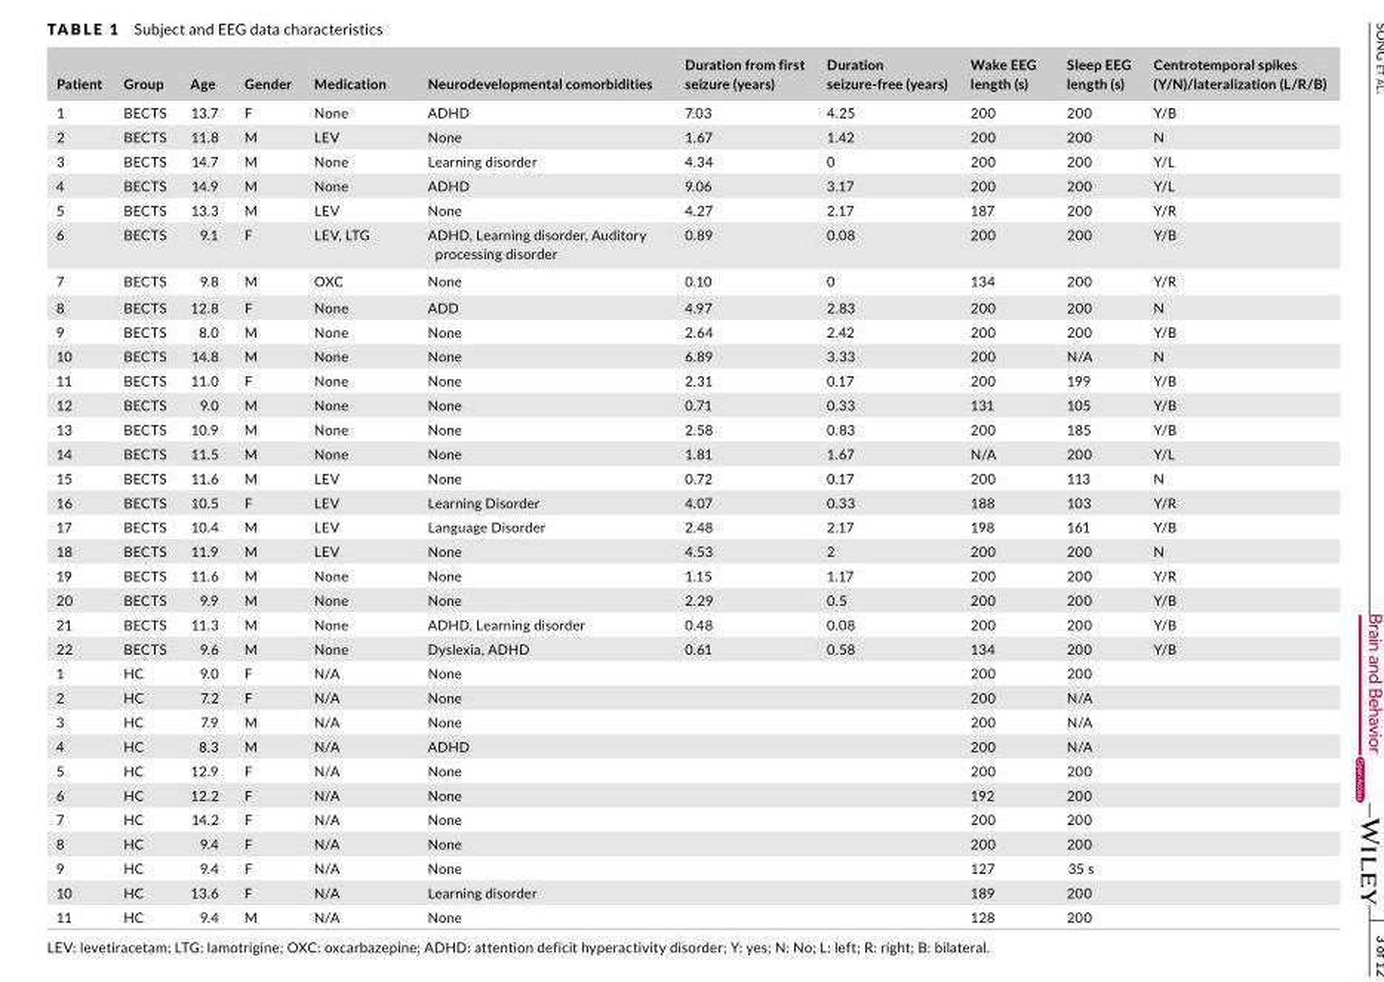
<table><thead><tr><td>Patient</td><td>Group</td><td>Age</td><td>Gender</td><td>Medication</td><td>Neurodevelopmental comorbidities</td><td>Duration from first seizure (years)</td><td>Duration seizure‐free (years)</td><td>Wake EEG length (s)</td><td>Sleep EEG length (s)</td><td>Centrotemporal spikes (Y/N)/lateralization (L/R/B)</td></tr></thead><tbody><tr><td>1</td><td>BECTS</td><td>13.7</td><td>F</td><td>None</td><td>ADHD</td><td>7.03</td><td>4.25</td><td>200</td><td>200</td><td>Y/B</td></tr><tr><td>2</td><td>BECTS</td><td>11.8</td><td>M</td><td>LEV</td><td>None</td><td>1.67</td><td>1.42</td><td>200</td><td>200</td><td>N</td></tr><tr><td>3</td><td>BECTS</td><td>14.7</td><td>M</td><td>None</td><td>Learning disorder</td><td>4.34</td><td>0</td><td>200</td><td>200</td><td>Y/L</td></tr><tr><td>4</td><td>BECTS</td><td>14.9</td><td>M</td><td>None</td><td>ADHD</td><td>9.06</td><td>3.17</td><td>200</td><td>200</td><td>Y/L</td></tr><tr><td>5</td><td>BECTS</td><td>13.3</td><td>M</td><td>LEV</td><td>None</td><td>4.27</td><td>2.17</td><td>187</td><td>200</td><td>Y/R</td></tr><tr><td>6</td><td>BECTS</td><td>9.1</td><td>F</td><td>LEV, LTG</td><td>ADHD, Learning disorder, Auditory processing disorder</td><td>0.89</td><td>0.08</td><td>200</td><td>200</td><td>Y/B</td></tr><tr><td>7</td><td>BECTS</td><td>9.8</td><td>M</td><td>OXC</td><td>None</td><td>0.10</td><td>0</td><td>134</td><td>200</td><td>Y/R</td></tr><tr><td>8</td><td>BECTS</td><td>12.8</td><td>F</td><td>None</td><td>ADD</td><td>4.97</td><td>2.83</td><td>200</td><td>200</td><td>N</td></tr><tr><td>9</td><td>BECTS</td><td>8.0</td><td>M</td><td>None</td><td>None</td><td>2.64</td><td>2.42</td><td>200</td><td>200</td><td>Y/B</td></tr><tr><td>10</td><td>BECTS</td><td>14.8</td><td>M</td><td>None</td><td>None</td><td>6.89</td><td>3.33</td><td>200</td><td>N/A</td><td>N</td></tr><tr><td>11</td><td>BECTS</td><td>11.0</td><td>F</td><td>None</td><td>None</td><td>2.31</td><td>0.17</td><td>200</td><td>199</td><td>Y/B</td></tr><tr><td>12</td><td>BECTS</td><td>9.0</td><td>M</td><td>None</td><td>None</td><td>0.71</td><td>0.33</td><td>131</td><td>105</td><td>Y/B</td></tr><tr><td>13</td><td>BECTS</td><td>10.9</td><td>M</td><td>None</td><td>None</td><td>2.58</td><td>0.83</td><td>200</td><td>185</td><td>Y/B</td></tr><tr><td>14</td><td>BECTS</td><td>11.5</td><td>M</td><td>None</td><td>None</td><td>1.81</td><td>1.67</td><td>N/A</td><td>200</td><td>Y/L</td></tr><tr><td>15</td><td>BECTS</td><td>11.6</td><td>M</td><td>LEV</td><td>None</td><td>0.72</td><td>0.17</td><td>200</td><td>113</td><td>N</td></tr><tr><td>16</td><td>BECTS</td><td>10.5</td><td>F</td><td>LEV</td><td>Learning Disorder</td><td>4.07</td><td>0.33</td><td>188</td><td>103</td><td>Y/R</td></tr><tr><td>17</td><td>BECTS</td><td>10.4</td><td>M</td><td>LEV</td><td>Language Disorder</td><td>2.48</td><td>2.17</td><td>198</td><td>161</td><td>Y/B</td></tr><tr><td>18</td><td>BECTS</td><td>11.9</td><td>M</td><td>LEV</td><td>None</td><td>4.53</td><td>2</td><td>200</td><td>200</td><td>N</td></tr><tr><td>19</td><td>BECTS</td><td>11.6</td><td>M</td><td>None</td><td>None</td><td>1.15</td><td>1.17</td><td>200</td><td>200</td><td>Y/R</td></tr><tr><td>20</td><td>BECTS</td><td>9.9</td><td>M</td><td>None</td><td>None</td><td>2.29</td><td>0.5</td><td>200</td><td>200</td><td>Y/B</td></tr><tr><td>21</td><td>BECTS</td><td>11.3</td><td>M</td><td>None</td><td>ADHD, Learning disorder</td><td>0.48</td><td>0.08</td><td>200</td><td>200</td><td>Y/B</td></tr><tr><td>22</td><td>BECTS</td><td>9.6</td><td>M</td><td>None</td><td>Dyslexia, ADHD</td><td>0.61</td><td>0.58</td><td>134</td><td>200</td><td>Y/B</td></tr><tr><td>1</td><td>HC</td><td>9.0</td><td>F</td><td>N/A</td><td>None</td><td></td><td></td><td>200</td><td>200</td><td></td></tr><tr><td>2</td><td>HC</td><td>7.2</td><td>F</td><td>N/A</td><td>None</td><td></td><td></td><td>200</td><td>N/A</td><td></td></tr><tr><td>3</td><td>HC</td><td>7.9</td><td>M</td><td>N/A</td><td>None</td><td></td><td></td><td>200</td><td>N/A</td><td></td></tr><tr><td>4</td><td>HC</td><td>8.3</td><td>M</td><td>N/A</td><td>ADHD</td><td></td><td></td><td>200</td><td>N/A</td><td></td></tr><tr><td>5</td><td>HC</td><td>12.9</td><td>F</td><td>N/A</td><td>None</td><td></td><td></td><td>200</td><td>200</td><td></td></tr><tr><td>6</td><td>HC</td><td>12.2</td><td>F</td><td>N/A</td><td>None</td><td></td><td></td><td>192</td><td>200</td><td></td></tr><tr><td>7</td><td>HC</td><td>14.2</td><td>F</td><td>N/A</td><td>None</td><td></td><td></td><td>200</td><td>200</td><td></td></tr><tr><td>8</td><td>HC</td><td>9.4</td><td>F</td><td>N/A</td><td>None</td><td></td><td></td><td>200</td><td>200</td><td></td></tr><tr><td>9</td><td>HC</td><td>9.4</td><td>F</td><td>N/A</td><td>None</td><td></td><td></td><td>127</td><td>35 s</td><td></td></tr><tr><td>10</td><td>HC</td><td>13.6</td><td>F</td><td>N/A</td><td>Learning disorder</td><td></td><td></td><td>189</td><td>200</td><td></td></tr><tr><td>11</td><td>HC</td><td>9.4</td><td>M</td><td>N/A</td><td>None</td><td></td><td></td><td>128</td><td>200</td><td></td></tr></tbody></table>